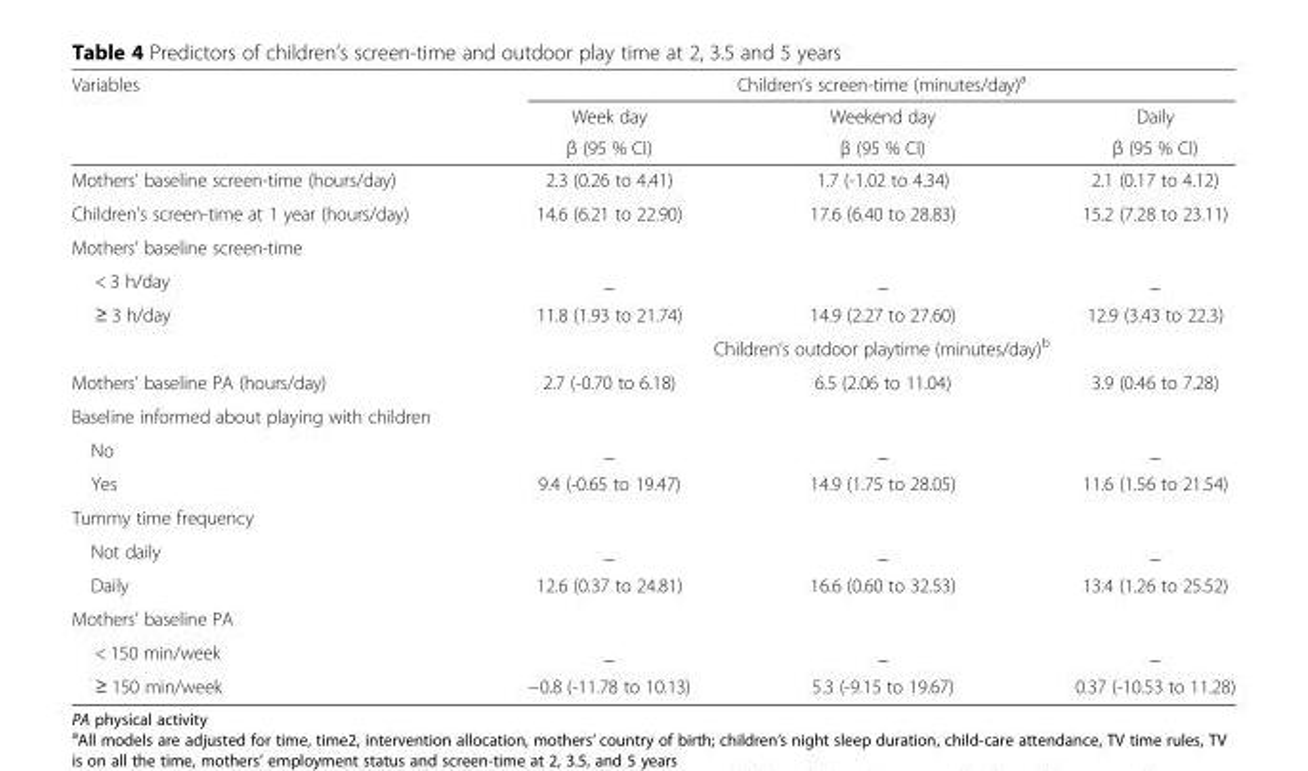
<table><thead><tr><td rowspan="3">Variables</td><td colspan="3">Children’s screen-time (minutes/day)<sup>a</sup></td></tr><tr><td rowspan="2">Week day β (95 % CI)</td><td rowspan="2">Weekend day β (95 % CI)</td><td rowspan="2">Daily β (95 % CI)</td></tr><tr></tr></thead><tbody><tr><td>Mothers’ baseline screen-time (hours/day)</td><td>2.3 (0.26 to 4.41)</td><td>1.7 (-1.02 to 4.34)</td><td>2.1 (0.17 to 4.12)</td></tr><tr><td>Children’s screen-time at 1 year (hours/day)</td><td>14.6 (6.21 to 22.90)</td><td>17.6 (6.40 to 28.83)</td><td>15.2 (7.28 to 23.11)</td></tr><tr><td colspan="4">Mothers’ baseline screen-time</td></tr><tr><td>&lt; 3 h/day</td><td>_</td><td>_</td><td>_</td></tr><tr><td rowspan="2">≥ 3 h/day</td><td>11.8 (1.93 to 21.74)</td><td>14.9 (2.27 to 27.60)</td><td>12.9 (3.43 to 22.3)</td></tr><tr><td colspan="3">Children’s outdoor playtime (minutes/day)<sup>b</sup></td></tr><tr><td>Mothers’ baseline PA (hours/day)</td><td>2.7 (-0.70 to 6.18)</td><td>6.5 (2.06 to 11.04)</td><td>3.9 (0.46 to 7.28)</td></tr><tr><td colspan="4">Baseline informed about playing with children</td></tr><tr><td>No</td><td>_</td><td>_</td><td>_</td></tr><tr><td>Yes</td><td>9.4 (-0.65 to 19.47)</td><td>14.9 (1.75 to 28.05)</td><td>11.6 (1.56 to 21.54)</td></tr><tr><td colspan="4">Tummy time frequency</td></tr><tr><td>Not daily</td><td>_</td><td>_</td><td>_</td></tr><tr><td>Daily</td><td>12.6 (0.37 to 24.81)</td><td>16.6 (0.60 to 32.53)</td><td>13.4 (1.26 to 25.52)</td></tr><tr><td colspan="4">Mothers’ baseline PA</td></tr><tr><td>&lt; 150 min/week</td><td>_</td><td>_</td><td>_</td></tr><tr><td>≥ 150 min/week</td><td>−0.8 (-11.78 to 10.13)</td><td>5.3 (-9.15 to 19.67)</td><td>0.37 (-10.53 to 11.28)</td></tr></tbody></table>